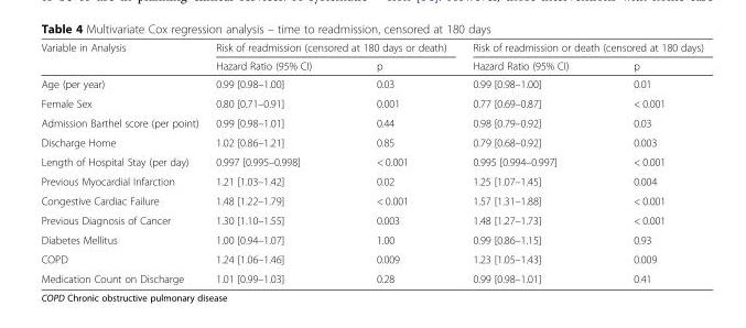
<table><thead><tr><td rowspan="2">Variable in Analysis</td><td colspan="2">Risk of readmission (censored at 180 days or death)</td><td colspan="2">Risk of readmission or death (censored at 180 days)</td></tr><tr><td>Hazard Ratio (95% CI)</td><td>p</td><td>Hazard Ratio (95% CI)</td><td>p</td></tr></thead><tbody><tr><td>Age (per year)</td><td>0.99 [0.98–1.00]</td><td>0.03</td><td>0.99 [0.98–1.00]</td><td>0.01</td></tr><tr><td>Female Sex</td><td>0.80 [0.71–0.91]</td><td>0.001</td><td>0.77 [0.69–0.87]</td><td>&lt; 0.001</td></tr><tr><td>Admission Barthel score (per point)</td><td>0.99 [0.98–1.01]</td><td>0.44</td><td>0.98 [0.79–0.92]</td><td>0.03</td></tr><tr><td>Discharge Home</td><td>1.02 [0.86–1.21]</td><td>0.85</td><td>0.79 [0.68–0.92]</td><td>0.003</td></tr><tr><td>Length of Hospital Stay (per day)</td><td>0.997 [0.995–0.998]</td><td>&lt; 0.001</td><td>0.995 [0.994–0.997]</td><td>&lt; 0.001</td></tr><tr><td>Previous Myocardial Infarction</td><td>1.21 [1.03–1.42]</td><td>0.02</td><td>1.25 [1.07–1.45]</td><td>0.004</td></tr><tr><td>Congestive Cardiac Failure</td><td>1.48 [1.22–1.79]</td><td>&lt; 0.001</td><td>1.57 [1.31–1.88]</td><td>&lt; 0.001</td></tr><tr><td>Previous Diagnosis of Cancer</td><td>1.30 [1.10–1.55]</td><td>0.003</td><td>1.48 [1.27–1.73]</td><td>&lt; 0.001</td></tr><tr><td>Diabetes Mellitus</td><td>1.00 [0.94–1.07]</td><td>1.00</td><td>0.99 [0.86–1.15]</td><td>0.93</td></tr><tr><td>COPD</td><td>1.24 [1.06–1.46]</td><td>0.009</td><td>1.23 [1.05–1.43]</td><td>0.009</td></tr><tr><td>Medication Count on Discharge</td><td>1.01 [0.99–1.03]</td><td>0.28</td><td>0.99 [0.98–1.01]</td><td>0.41</td></tr></tbody></table>